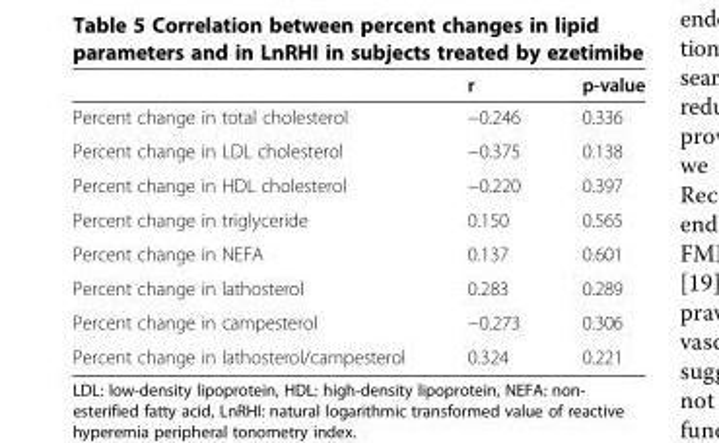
<table><thead><tr><td></td><td>r</td><td>p-value</td></tr></thead><tbody><tr><td>Percent change in total cholesterol</td><td>−0.246</td><td>0.336</td></tr><tr><td>Percent change in LDL cholesterol</td><td>−0.375</td><td>0.138</td></tr><tr><td>Percent change in HDL cholesterol</td><td>−0.220</td><td>0.397</td></tr><tr><td>Percent change in triglyceride</td><td>0.150</td><td>0.565</td></tr><tr><td>Percent change in NEFA</td><td>0.137</td><td>0.601</td></tr><tr><td>Percent change in lathosterol</td><td>0.283</td><td>0.289</td></tr><tr><td>Percent change in campesterol</td><td>−0.273</td><td>0.306</td></tr><tr><td>Percent change in lathosterol/campesterol</td><td>0.324</td><td>0.221</td></tr></tbody></table>